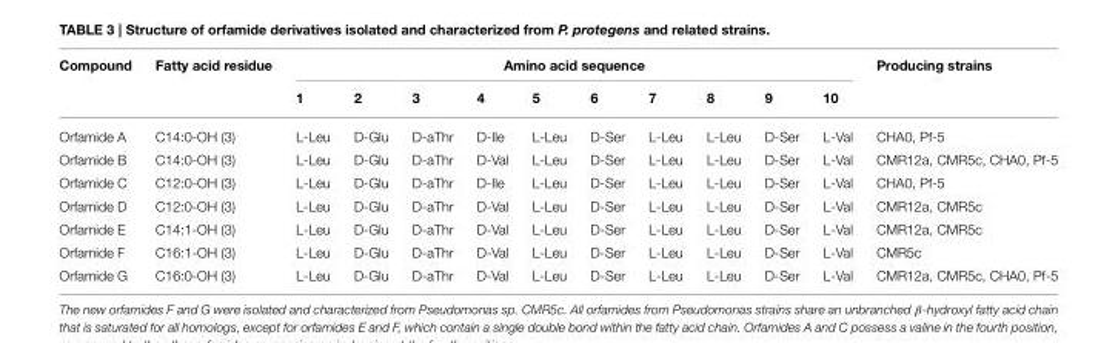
<table><thead><tr><td rowspan="2">Compound</td><td rowspan="2">Fatty acid residue</td><td colspan="10">Amino acid sequence</td><td rowspan="2">Producing strains</td></tr><tr><td>1</td><td>2</td><td>3</td><td>4</td><td>5</td><td>6</td><td>7</td><td>8</td><td>9</td><td>10</td></tr></thead><tbody><tr><td>Orfamide A</td><td>C14:0-OH (3)</td><td>L-Leu</td><td>D-Glu</td><td>D-aThr</td><td>D-Ile</td><td>L-Leu</td><td>D-Ser</td><td>L-Leu</td><td>L-Leu</td><td>D-Ser</td><td>L-Val</td><td>CHA0, Pf-5</td></tr><tr><td>Orfamide B</td><td>C14:0-OH (3)</td><td>L-Leu</td><td>D-Glu</td><td>D-aThr</td><td>D-Val</td><td>L-Leu</td><td>D-Ser</td><td>L-Leu</td><td>L-Leu</td><td>D-Ser</td><td>L-Val</td><td>CMR12a, CMR5c, CHA0, Pf-5</td></tr><tr><td>Orfamide C</td><td>C12:0-OH (3)</td><td>L-Leu</td><td>D-Glu</td><td>D-aThr</td><td>D-Ile</td><td>L-Leu</td><td>D-Ser</td><td>L-Leu</td><td>L-Leu</td><td>D-Ser</td><td>L-Val</td><td>CHA0, Pf-5</td></tr><tr><td>Orfamide D</td><td>C12:0-OH (3)</td><td>L-Leu</td><td>D-Glu</td><td>D-aThr</td><td>D-Val</td><td>L-Leu</td><td>D-Ser</td><td>L-Leu</td><td>L-Leu</td><td>D-Ser</td><td>L-Val</td><td>CMR12a, CMR5c</td></tr><tr><td>Orfamide E</td><td>C14:1-OH (3)</td><td>L-Leu</td><td>D-Glu</td><td>D-aThr</td><td>D-Val</td><td>L-Leu</td><td>D-Ser</td><td>L-Leu</td><td>L-Leu</td><td>D-Ser</td><td>L-Val</td><td>CMR12a, CMR5c</td></tr><tr><td>Orfamide F</td><td>C16:1-OH (3)</td><td>L-Leu</td><td>D-Glu</td><td>D-aThr</td><td>D-Val</td><td>L-Leu</td><td>D-Ser</td><td>L-Leu</td><td>L-Leu</td><td>D-Ser</td><td>L-Val</td><td>CMR5c</td></tr><tr><td>Orfamide G</td><td>C16:0-OH (3)</td><td>L-Leu</td><td>D-Glu</td><td>D-aThr</td><td>D-Val</td><td>L-Leu</td><td>D-Ser</td><td>L-Leu</td><td>L-Leu</td><td>D-Ser</td><td>L-Val</td><td>CMR12a, CMR5c, CHA0, Pf-5</td></tr></tbody></table>